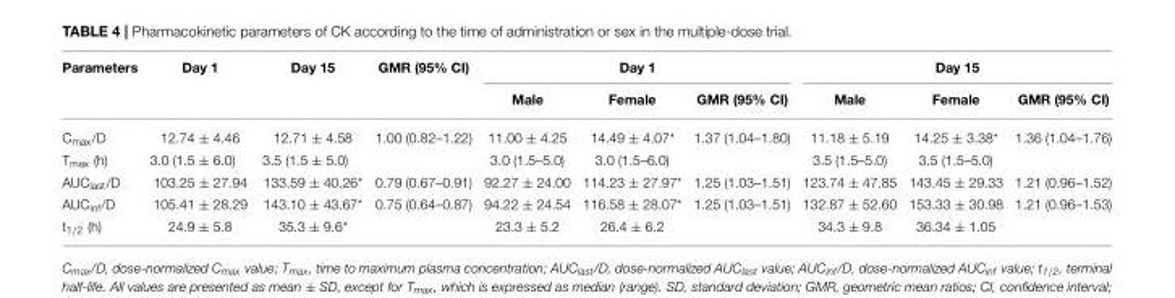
<table><thead><tr><td rowspan="2">Parameters</td><td rowspan="2">Day 1</td><td rowspan="2">Day 15</td><td rowspan="2">GMR (95% CI)</td><td colspan="3">Day 1</td><td colspan="3">Day 15</td></tr><tr><td>Male</td><td>Female</td><td>GMR (95% CI)</td><td>Male</td><td>Female</td><td>GMR (95% CI)</td></tr></thead><tbody><tr><td>C<sub>max</sub>/D</td><td>12.74 ± 4.46</td><td>12.71 ± 4.58</td><td>1.00 (0.82–1.22)</td><td>11.00 ± 4.25</td><td>14.49 ± 4.07*</td><td>1.37 (1.04–1.80)</td><td>11.18 ± 5.19</td><td>14.25 ± 3.38*</td><td>1.36 (1.04–1.76)</td></tr><tr><td>T<sub>max</sub> (h)</td><td>3.0 (1.5 ± 6.0)</td><td>3.5 (1.5 ± 5.0)</td><td></td><td>3.0 (1.5–5.0)</td><td>3.0 (1.5–6.0)</td><td></td><td>3.5 (1.5–5.0)</td><td>3.5 (1.5–5.0)</td><td></td></tr><tr><td>AUC<sub>last</sub>/D</td><td>103.25 ± 27.94</td><td>133.59 ± 40.26*</td><td>0.79 (0.67–0.91)</td><td>92.27 ± 24.00</td><td>114.23 ± 27.97*</td><td>1.25 (1.03–1.51)</td><td>123.74 ± 47.85</td><td>143.45 ± 29.33</td><td>1.21 (0.96–1.52)</td></tr><tr><td>AUC<sub>inf</sub>/D</td><td>105.41 ± 28.29</td><td>143.10 ± 43.67*</td><td>0.75 (0.64–0.87)</td><td>94.22 ± 24.54</td><td>116.58 ± 28.07*</td><td>1.25 (1.03–1.51)</td><td>132.87 ± 52.60</td><td>153.33 ± 30.98</td><td>1.21 (0.96–1.53)</td></tr><tr><td>t<sub>1/2</sub> (h)</td><td>24.9 ± 5.8</td><td>35.3 ± 9.6*</td><td></td><td>23.3 ± 5.2</td><td>26.4 ± 6.2</td><td></td><td>34.3 ± 9.8</td><td>36.34 ± 1.05</td><td></td></tr></tbody></table>